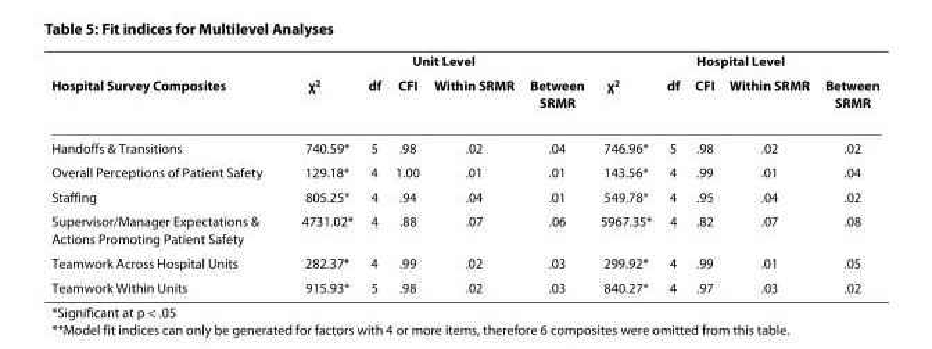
<table><thead><tr><td rowspan="2">Hospital Survey Composites</td><td colspan="5">Unit Level</td><td colspan="5">Hospital Level</td></tr><tr><td>χ<sup>2</sup></td><td>df</td><td>CFI</td><td>Within SRMR</td><td>Between SRMR</td><td>χ<sup>2</sup></td><td>df</td><td>CFI</td><td>Within SRMR</td><td>Between SRMR</td></tr></thead><tbody><tr><td>Handoffs &amp; Transitions</td><td>740.59*</td><td>5</td><td>.98</td><td>.02</td><td>.04</td><td>746.96*</td><td>5</td><td>.98</td><td>.02</td><td>.02</td></tr><tr><td>Overall Perceptions of Patient Safety</td><td>129.18*</td><td>4</td><td>1.00</td><td>.01</td><td>.01</td><td>143.56*</td><td>4</td><td>.99</td><td>.01</td><td>.04</td></tr><tr><td>Staffing</td><td>805.25*</td><td>4</td><td>.94</td><td>.04</td><td>.01</td><td>549.78*</td><td>4</td><td>.95</td><td>.04</td><td>.02</td></tr><tr><td>Supervisor/Manager Expectations &amp; Actions Promoting Patient Safety</td><td>4731.02*</td><td>4</td><td>.88</td><td>.07</td><td>.06</td><td>5967.35*</td><td>4</td><td>.82</td><td>.07</td><td>.08</td></tr><tr><td>Teamwork Across Hospital Units</td><td>282.37*</td><td>4</td><td>.99</td><td>.02</td><td>.03</td><td>299.92*</td><td>4</td><td>.99</td><td>.01</td><td>.05</td></tr><tr><td>Teamwork Within Units</td><td>915.93*</td><td>5</td><td>.98</td><td>.02</td><td>.03</td><td>840.27*</td><td>4</td><td>.97</td><td>.03</td><td>.02</td></tr></tbody></table>